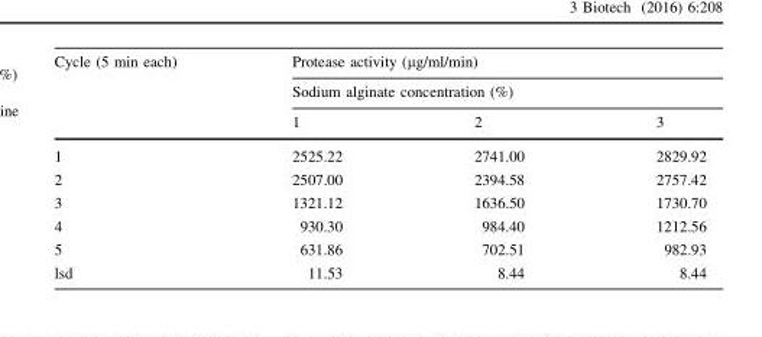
<table><thead><tr><td rowspan="3">Cycle (5 min each)</td><td rowspan="2" colspan="3">Protease activity (µg/ml/min) Sodium alginate concentration (%)</td></tr><tr></tr><tr><td>1</td><td>2</td><td>3</td></tr></thead><tbody><tr><td>1</td><td>2525.22</td><td>2741.00</td><td>2829.92</td></tr><tr><td>2</td><td>2507.00</td><td>2394.58</td><td>2757.42</td></tr><tr><td>3</td><td>1321.12</td><td>1636.50</td><td>1730.70</td></tr><tr><td>4</td><td>930.30</td><td>984.40</td><td>1212.56</td></tr><tr><td>5</td><td>631.86</td><td>702.51</td><td>982.93</td></tr><tr><td>lsd</td><td>11.53</td><td>8.44</td><td>8.44</td></tr></tbody></table>